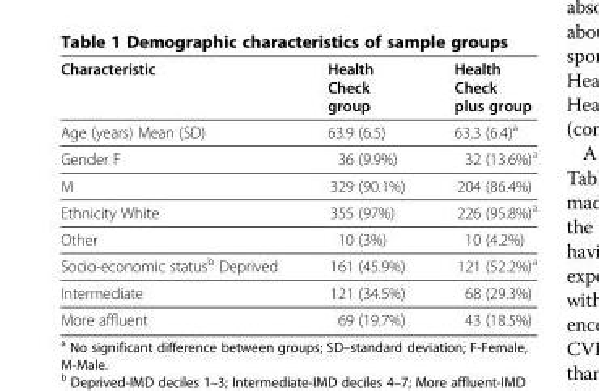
<table><thead><tr><td>Characteristic</td><td>Health Check group</td><td>Health Check plus group</td></tr></thead><tbody><tr><td>Age (years) Mean (SD)</td><td>63.9 (6.5)</td><td>63.3 (6.4)<sup>a</sup></td></tr><tr><td>Gender F</td><td>36 (9.9%)</td><td>32 (13.6%)<sup>a</sup></td></tr><tr><td>M</td><td>329 (90.1%)</td><td>204 (86.4%)</td></tr><tr><td>Ethnicity White</td><td>355 (97%)</td><td>226 (95.8%)<sup>a</sup></td></tr><tr><td>Other</td><td>10 (3%)</td><td>10 (4.2%)</td></tr><tr><td>Socio-economic status<sup>b</sup> Deprived</td><td>161 (45.9%)</td><td>121 (52.2%)<sup>a</sup></td></tr><tr><td>Intermediate</td><td>121 (34.5%)</td><td>68 (29.3%)</td></tr><tr><td>More affluent</td><td>69 (19.7%)</td><td>43 (18.5%)</td></tr></tbody></table>